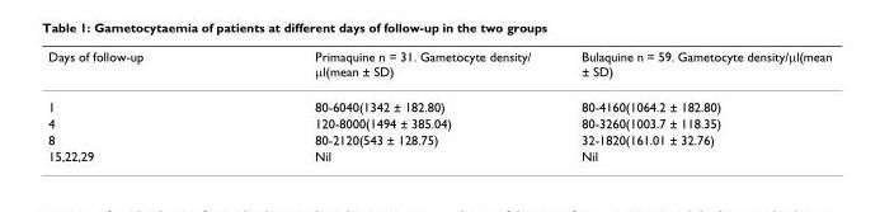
<table><thead><tr><td>Days of follow-up</td><td>Primaquine n = 31. Gametocyte density/ µl(mean ± SD)</td><td>Bulaquine n = 59. Gametocyte density/µl(mean ± SD)</td></tr></thead><tbody><tr><td>1</td><td>80-6040(1342 ± 182.80)</td><td>80-4160(1064.2 ± 182.80)</td></tr><tr><td>4</td><td>120-8000(1494 ± 385.04)</td><td>80-3260(1003.7 ± 118.35)</td></tr><tr><td>8</td><td>80-2120(543 ± 128.75)</td><td>32-1820(161.01 ± 32.76)</td></tr><tr><td>15,22,29</td><td>Nil</td><td>Nil</td></tr></tbody></table>